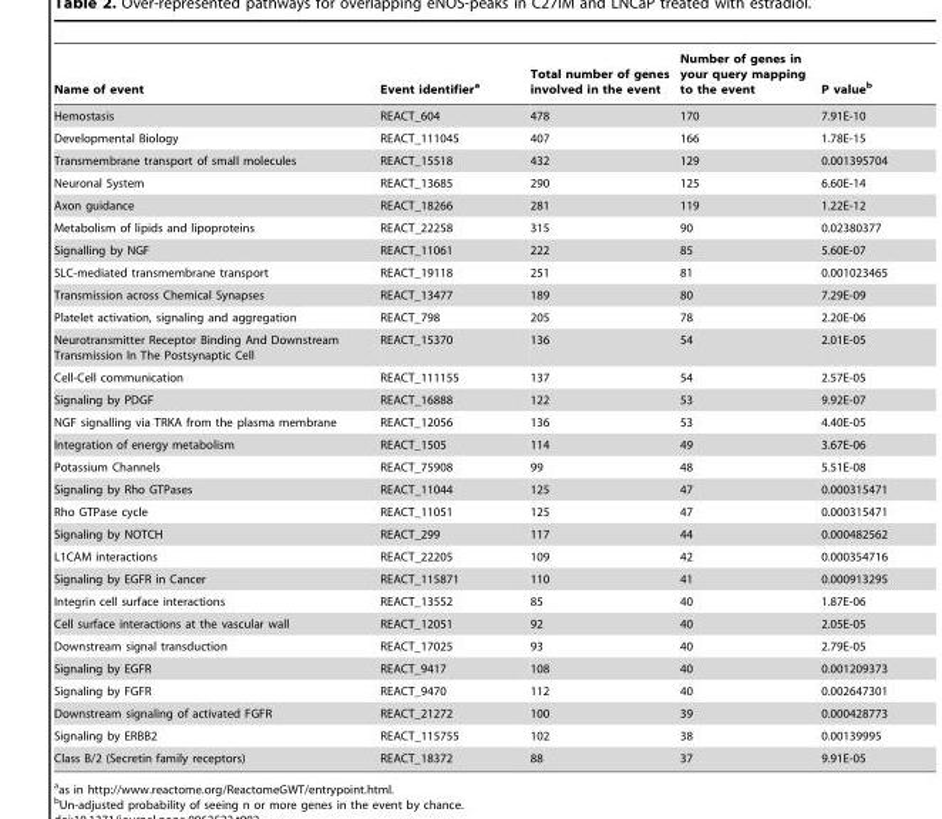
<table><thead><tr><td>Name of event</td><td>Event identifier<sup>a</sup></td><td>Total number of genes involved in the event</td><td>Number of genes in your query mapping to the event</td><td>P value<sup>b</sup></td></tr></thead><tbody><tr><td>Hemostasis</td><td>REACT_604</td><td>478</td><td>170</td><td>7.91E-10</td></tr><tr><td>Developmental Biology</td><td>REACT_111045</td><td>407</td><td>166</td><td>1.78E-15</td></tr><tr><td>Transmembrane transport of small molecules</td><td>REACT_15518</td><td>432</td><td>129</td><td>0.001395704</td></tr><tr><td>Neuronal System</td><td>REACT_13685</td><td>290</td><td>125</td><td>6.60E-14</td></tr><tr><td>Axon guidance</td><td>REACT_18266</td><td>281</td><td>119</td><td>1.22E-12</td></tr><tr><td>Metabolism of lipids and lipoproteins</td><td>REACT_22258</td><td>315</td><td>90</td><td>0.02380377</td></tr><tr><td>Signalling by NGF</td><td>REACT_11061</td><td>222</td><td>85</td><td>5.60E-07</td></tr><tr><td>SLC-mediated transmembrane transport</td><td>REACT_19118</td><td>251</td><td>81</td><td>0.001023465</td></tr><tr><td>Transmission across Chemical Synapses</td><td>REACT_13477</td><td>189</td><td>80</td><td>7.29E-09</td></tr><tr><td>Platelet activation, signaling and aggregation</td><td>REACT_798</td><td>205</td><td>78</td><td>2.20E-06</td></tr><tr><td>Neurotransmitter Receptor Binding And Downstream Transmission In The Postsynaptic Cell</td><td>REACT_15370</td><td>136</td><td>54</td><td>2.01E-05</td></tr><tr><td>Cell-Cell communication</td><td>REACT_111155</td><td>137</td><td>54</td><td>2.57E-05</td></tr><tr><td>Signaling by PDGF</td><td>REACT_16888</td><td>122</td><td>53</td><td>9.92E-07</td></tr><tr><td>NGF signalling via TRKA from the plasma membrane</td><td>REACT_12056</td><td>136</td><td>53</td><td>4.40E-05</td></tr><tr><td>Integration of energy metabolism</td><td>REACT_1505</td><td>114</td><td>49</td><td>3.67E-06</td></tr><tr><td>Potassium Channels</td><td>REACT_75908</td><td>99</td><td>48</td><td>5.51E-08</td></tr><tr><td>Signaling by Rho GTPases</td><td>REACT_11044</td><td>125</td><td>47</td><td>0.000315471</td></tr><tr><td>Rho GTPase cycle</td><td>REACT_11051</td><td>125</td><td>47</td><td>0.000315471</td></tr><tr><td>Signaling by NOTCH</td><td>REACT_299</td><td>117</td><td>44</td><td>0.000482562</td></tr><tr><td>L1CAM interactions</td><td>REACT_22205</td><td>109</td><td>42</td><td>0.000354716</td></tr><tr><td>Signaling by EGFR in Cancer</td><td>REACT_115871</td><td>110</td><td>41</td><td>0.000913295</td></tr><tr><td>Integrin cell surface interactions</td><td>REACT_13552</td><td>85</td><td>40</td><td>1.87E-06</td></tr><tr><td>Cell surface interactions at the vascular wall</td><td>REACT_12051</td><td>92</td><td>40</td><td>2.05E-05</td></tr><tr><td>Downstream signal transduction</td><td>REACT_17025</td><td>93</td><td>40</td><td>2.79E-05</td></tr><tr><td>Signaling by EGFR</td><td>REACT_9417</td><td>108</td><td>40</td><td>0.001209373</td></tr><tr><td>Signaling by FGFR</td><td>REACT_9470</td><td>112</td><td>40</td><td>0.002647301</td></tr><tr><td>Downstream signaling of activated FGFR</td><td>REACT_21272</td><td>100</td><td>39</td><td>0.000428773</td></tr><tr><td>Signaling by ERBB2</td><td>REACT_115755</td><td>102</td><td>38</td><td>0.00139995</td></tr><tr><td>Class B/2 (Secretin family receptors)</td><td>REACT_18372</td><td>88</td><td>37</td><td>9.91E-05</td></tr></tbody></table>